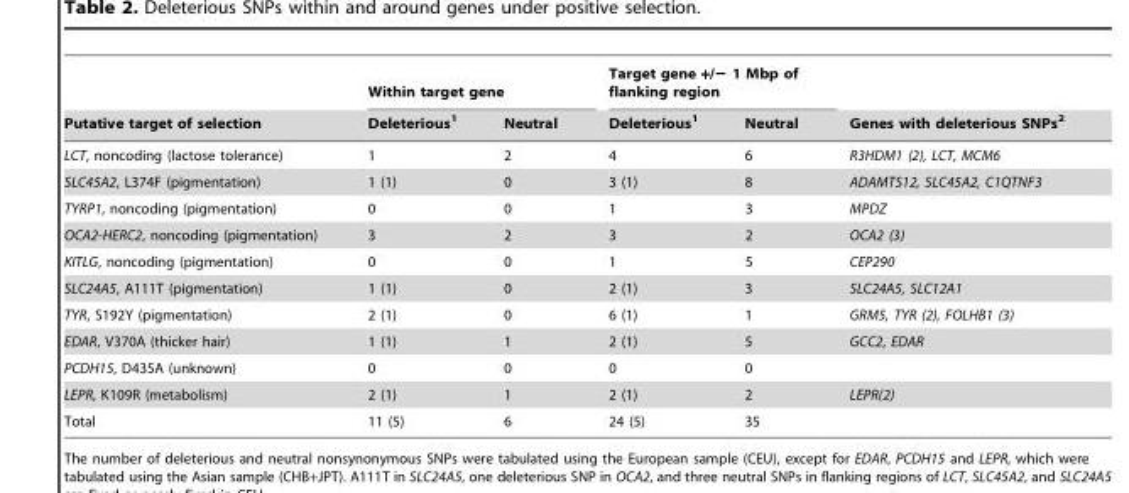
<table><thead><tr><td rowspan="2">Putative target of selection</td><td colspan="2">Within target gene</td><td colspan="2">Target gene +/− 1 Mbp of flanking region</td><td rowspan="2">Genes with deleterious SNPs<sup>2</sup></td></tr><tr><td>Deleterious<sup>1</sup></td><td>Neutral</td><td>Deleterious<sup>1</sup></td><td>Neutral</td></tr></thead><tbody><tr><td>LCT, noncoding (lactose tolerance)</td><td>1</td><td>2</td><td>4</td><td>6</td><td>R3HDM1 (2), LCT, MCM6</td></tr><tr><td>SLC45A2, L374F (pigmentation)</td><td>1 (1)</td><td>0</td><td>3 (1)</td><td>8</td><td>ADAMTS12, SLC45A2, C1QTNF3</td></tr><tr><td>TYRP1, noncoding (pigmentation)</td><td>0</td><td>0</td><td>1</td><td>3</td><td>MPDZ</td></tr><tr><td>OCA2-HERC2, noncoding (pigmentation)</td><td>3</td><td>2</td><td>3</td><td>2</td><td>OCA2 (3)</td></tr><tr><td>KITLG, noncoding (pigmentation)</td><td>0</td><td>0</td><td>1</td><td>5</td><td>CEP290</td></tr><tr><td>SLC24A5, A111T (pigmentation)</td><td>1 (1)</td><td>0</td><td>2 (1)</td><td>3</td><td>SLC24A5, SLC12A1</td></tr><tr><td>TYR, S192Y (pigmentation)</td><td>2 (1)</td><td>0</td><td>6 (1)</td><td>1</td><td>GRM5, TYR (2), FOLHB1 (3)</td></tr><tr><td>EDAR, V370A (thicker hair)</td><td>1 (1)</td><td>1</td><td>2 (1)</td><td>5</td><td>GCC2, EDAR</td></tr><tr><td>PCDH15, D435A (unknown)</td><td>0</td><td>0</td><td>0</td><td>0</td><td></td></tr><tr><td>LEPR, K109R (metabolism)</td><td>2 (1)</td><td>1</td><td>2 (1)</td><td>2</td><td>LEPR(2)</td></tr><tr><td>Total</td><td>11 (5)</td><td>6</td><td>24 (5)</td><td>35</td><td></td></tr></tbody></table>